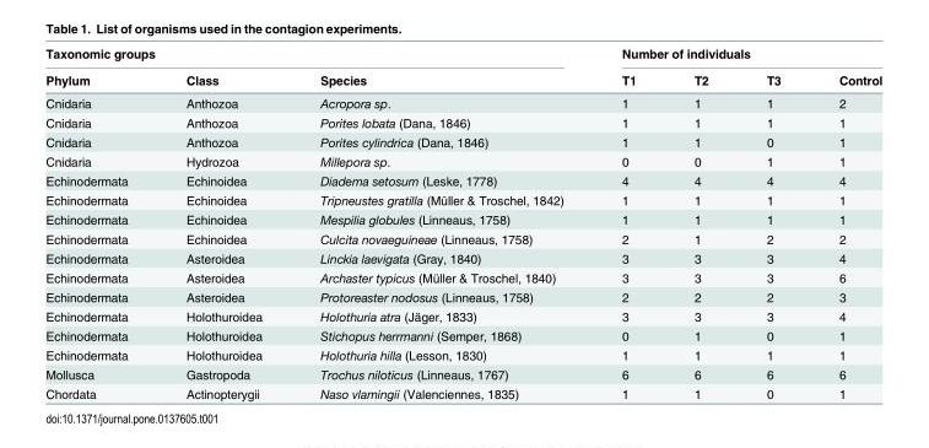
<table><thead><tr><td colspan="3">Taxonomic groups</td><td colspan="4">Number of individuals</td></tr><tr><td>Phylum</td><td>Class</td><td>Species</td><td>T1</td><td>T2</td><td>T3</td><td>Control</td></tr></thead><tbody><tr><td>Cnidaria</td><td>Anthozoa</td><td>Acropora sp.</td><td>1</td><td>1</td><td>1</td><td>2</td></tr><tr><td>Cnidaria</td><td>Anthozoa</td><td>Porites lobata (Dana, 1846)</td><td>1</td><td>1</td><td>1</td><td>1</td></tr><tr><td>Cnidaria</td><td>Anthozoa</td><td>Porites cylindrica (Dana, 1846)</td><td>1</td><td>1</td><td>0</td><td>1</td></tr><tr><td>Cnidaria</td><td>Hydrozoa</td><td>Millepora sp.</td><td>0</td><td>0</td><td>1</td><td>1</td></tr><tr><td>Echinodermata</td><td>Echinoidea</td><td>Diadema setosum (Leske, 1778)</td><td>4</td><td>4</td><td>4</td><td>4</td></tr><tr><td>Echinodermata</td><td>Echinoidea</td><td>Tripneustes gratilla (Müller &amp; Troschel, 1842)</td><td>1</td><td>1</td><td>1</td><td>1</td></tr><tr><td>Echinodermata</td><td>Echinoidea</td><td>Mespilia globules (Linneaus, 1758)</td><td>1</td><td>1</td><td>1</td><td>1</td></tr><tr><td>Echinodermata</td><td>Echinoidea</td><td>Culcita novaeguineae (Linneaus, 1758)</td><td>2</td><td>1</td><td>2</td><td>2</td></tr><tr><td>Echinodermata</td><td>Asteroidea</td><td>Linckia laevigata (Gray, 1840)</td><td>3</td><td>3</td><td>3</td><td>4</td></tr><tr><td>Echinodermata</td><td>Asteroidea</td><td>Archaster typicus (Müller &amp; Troschel, 1840)</td><td>3</td><td>3</td><td>3</td><td>6</td></tr><tr><td>Echinodermata</td><td>Asteroidea</td><td>Protoreaster nodosus (Linneaus, 1758)</td><td>2</td><td>2</td><td>2</td><td>3</td></tr><tr><td>Echinodermata</td><td>Holothuroidea</td><td>Holothuria atra (Jäger, 1833)</td><td>3</td><td>3</td><td>3</td><td>4</td></tr><tr><td>Echinodermata</td><td>Holothuroidea</td><td>Stichopus herrmanni (Semper, 1868)</td><td>0</td><td>1</td><td>0</td><td>1</td></tr><tr><td>Echinodermata</td><td>Holothuroidea</td><td>Holothuria hilla (Lesson, 1830)</td><td>1</td><td>1</td><td>1</td><td>1</td></tr><tr><td>Mollusca</td><td>Gastropoda</td><td>Trochus niloticus (Linneaus, 1767)</td><td>6</td><td>6</td><td>6</td><td>6</td></tr><tr><td>Chordata</td><td>Actinopterygii</td><td>Naso vlamingii (Valenciennes, 1835)</td><td>1</td><td>1</td><td>0</td><td>1</td></tr></tbody></table>